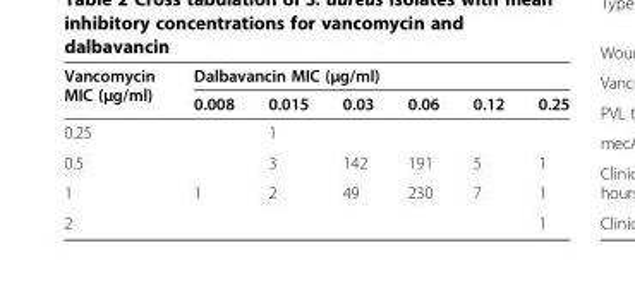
<table><thead><tr><td rowspan="2">Vancomycin MIC (μg/ml)</td><td colspan="6">Dalbavancin MIC (μg/ml)</td></tr><tr><td>0.008</td><td>0.015</td><td>0.03</td><td>0.06</td><td>0.12</td><td>0.25</td></tr></thead><tbody><tr><td>0.25</td><td></td><td>1</td><td></td><td></td><td></td><td></td></tr><tr><td>0.5</td><td></td><td>3</td><td>142</td><td>191</td><td>5</td><td>1</td></tr><tr><td>1</td><td>1</td><td>2</td><td>49</td><td>230</td><td>7</td><td>1</td></tr><tr><td>2</td><td></td><td></td><td></td><td></td><td></td><td>1</td></tr></tbody></table>